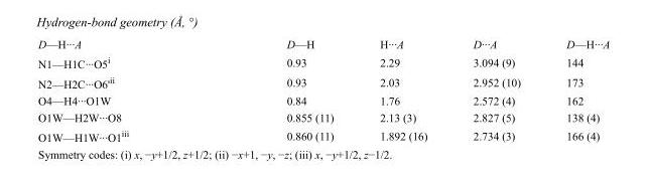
<table><tbody><tr><td>D—H···A</td><td>D—H</td><td>H···A</td><td>D···A</td><td>D—H···A</td></tr><tr><td>N1—H1C···O5<sup>i</sup></td><td>0.93</td><td>2.29</td><td>3.094 (9)</td><td>144</td></tr><tr><td>N2—H2C···O6&#x27;<sup>ii</sup></td><td>0.93</td><td>2.03</td><td>2.952 (10)</td><td>173</td></tr><tr><td>O4—H4···O1W</td><td>0.84</td><td>1.76</td><td>2.572 (4)</td><td>162</td></tr><tr><td>O1W—H2W···O8</td><td>0.855 (11)</td><td>2.13 (3)</td><td>2.827 (5)</td><td>138 (4)</td></tr><tr><td>O1W—H1W···O1<sup>iii</sup></td><td>0.860 (11)</td><td>1.892 (16)</td><td>2.734 (3)</td><td>166 (4)</td></tr></tbody></table>